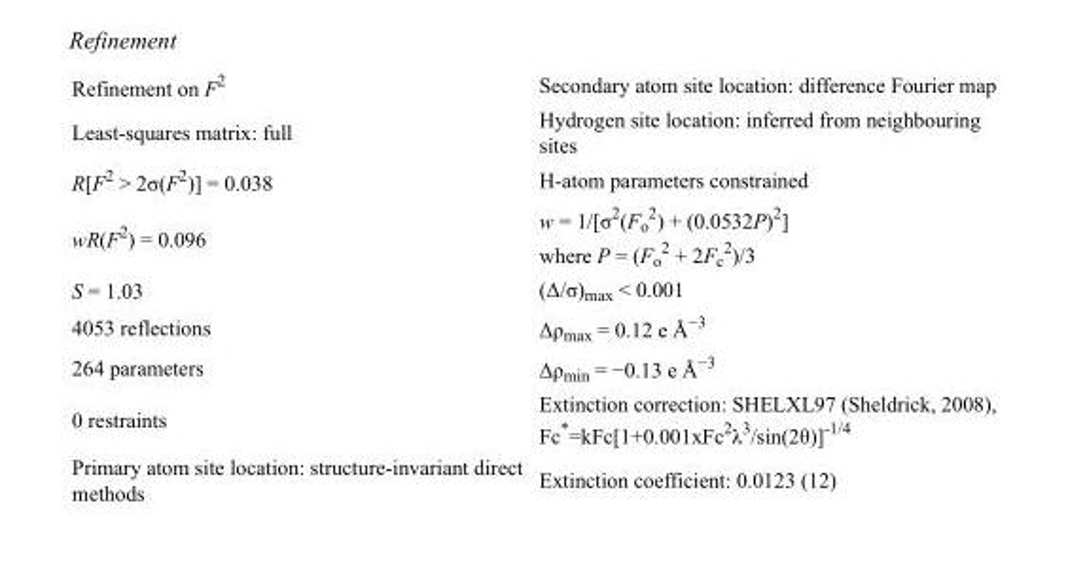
<table><tbody><tr><td>Refinement on F<sup>2</sup></td><td>Secondary atom site location: difference Fourier map</td></tr><tr><td>Least-squares matrix: full</td><td>Hydrogen site location: inferred from neighbouring sites</td></tr><tr><td>R[F<sup>2</sup> &gt; 2σ(F<sup>2</sup>)] = 0.038</td><td>H-atom parameters constrained</td></tr><tr><td>wR(F<sup>2</sup>) = 0.096</td><td>w = 1/[σ<sup>2</sup>(F<sub>o</sub> <sup>2</sup>) + (0.0532P)<sup>2</sup>] where P = (F<sub>o</sub> <sup>2</sup> + 2F<sub>c</sub> <sup>2</sup>)/3</td></tr><tr><td>S = 1.03</td><td>(Δ/σ)<sub>max</sub> &lt; 0.001</td></tr><tr><td>4053 reflections</td><td>Δρ<sub>max</sub> = 0.12 e Å<sup>−3</sup></td></tr><tr><td>264 parameters</td><td>Δρmin = −0.13 e Å−3</td></tr><tr><td>0 restraints</td><td>Extinction correction: SHELXL97 (Sheldrick, 2008), Fc*=kFc[1+0.001xFc<sup>2</sup>λ<sup>3</sup>/sin(2θ)]<sup>-1/4</sup></td></tr><tr><td>Primary atom site location: structure-invariant direct methods</td><td>Extinction coefficient: 0.0123 (12)</td></tr></tbody></table>